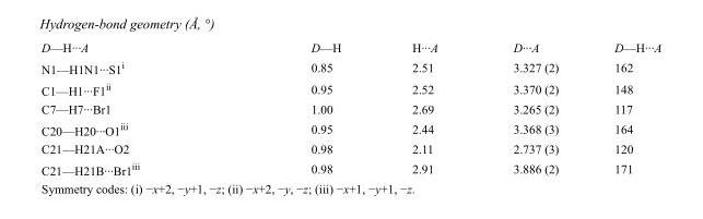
<table><tbody><tr><td>D—H···A</td><td>D—H</td><td>H···A</td><td>D···A</td><td>D—H···A</td></tr><tr><td>N1—H1N1···S1<sup>i</sup></td><td>0.85</td><td>2.51</td><td>3.327 (2)</td><td>162</td></tr><tr><td>C1—H1···F1<sup>ii</sup></td><td>0.95</td><td>2.52</td><td>3.370 (2)</td><td>148</td></tr><tr><td>C7—H7···Br1</td><td>1.00</td><td>2.69</td><td>3.265 (2)</td><td>117</td></tr><tr><td>C20—H20···O1<sup>iii</sup></td><td>0.95</td><td>2.44</td><td>3.368 (3)</td><td>164</td></tr><tr><td>C21—H21A···O2</td><td>0.98</td><td>2.11</td><td>2.737 (3)</td><td>120</td></tr><tr><td>C21—H21B···Br1<sup>iii</sup></td><td>0.98</td><td>2.91</td><td>3.886 (2)</td><td>171</td></tr></tbody></table>